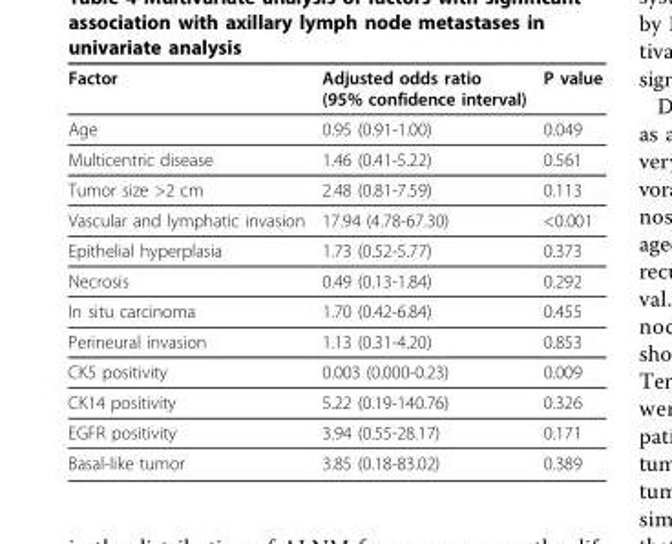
<table><thead><tr><td>Factor</td><td>Adjusted odds ratio (95% confidence interval)</td><td>P value</td></tr></thead><tbody><tr><td>Age</td><td>0.95 (0.91-1.00)</td><td>0.049</td></tr><tr><td>Multicentric disease</td><td>1.46 (0.41-5.22)</td><td>0.561</td></tr><tr><td>Tumor size &gt;2 cm</td><td>2.48 (0.81-7.59)</td><td>0.113</td></tr><tr><td>Vascular and lymphatic invasion</td><td>17.94 (4.78-67.30)</td><td>&lt;0.001</td></tr><tr><td>Epithelial hyperplasia</td><td>1.73 (0.52-5.77)</td><td>0.373</td></tr><tr><td>Necrosis</td><td>0.49 (0.13-1.84)</td><td>0.292</td></tr><tr><td>In situ carcinoma</td><td>1.70 (0.42-6.84)</td><td>0.455</td></tr><tr><td>Perineural invasion</td><td>1.13 (0.31-4.20)</td><td>0.853</td></tr><tr><td>CK5 positivity</td><td>0.003 (0.000-0.23)</td><td>0.009</td></tr><tr><td>CK14 positivity</td><td>5.22 (0.19-140.76)</td><td>0.326</td></tr><tr><td>EGFR positivity</td><td>3.94 (0.55-28.17)</td><td>0.171</td></tr><tr><td>Basal-like tumor</td><td>3.85 (0.18-83.02)</td><td>0.389</td></tr></tbody></table>